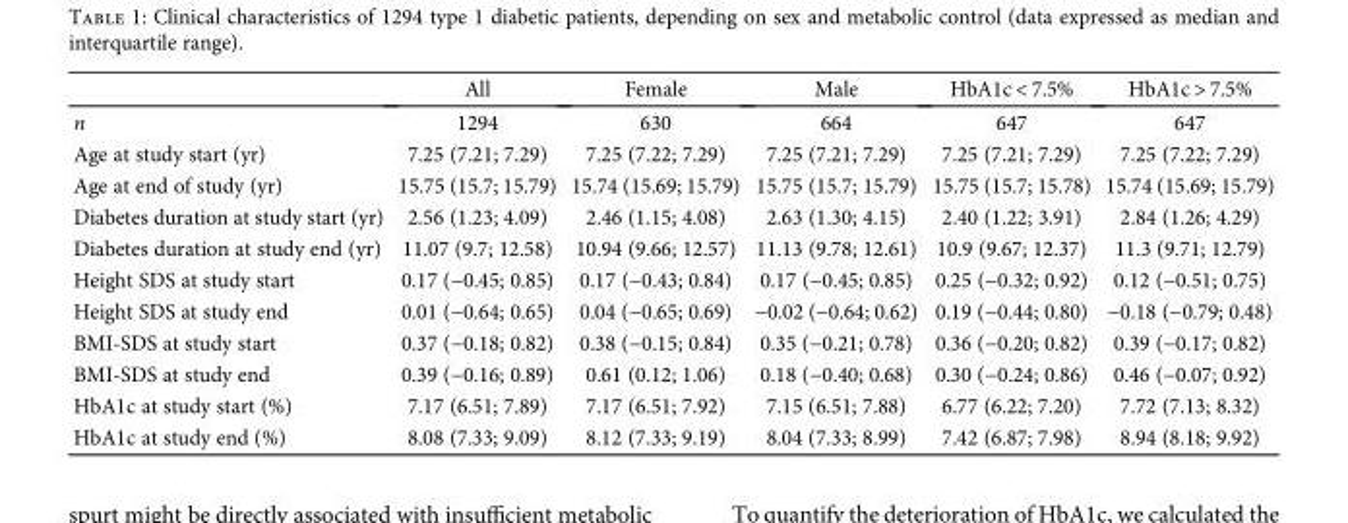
<table><thead><tr><td></td><td>All</td><td>Female</td><td>Male</td><td>HbA1c &lt; 7.5%</td><td>HbA1c &gt; 7.5%</td></tr></thead><tbody><tr><td>n</td><td>1294</td><td>630</td><td>664</td><td>647</td><td>647</td></tr><tr><td>Age at study start (yr)</td><td>7.25 (7.21; 7.29)</td><td>7.25 (7.22; 7.29)</td><td>7.25 (7.21; 7.29)</td><td>7.25 (7.21; 7.29)</td><td>7.25 (7.22; 7.29)</td></tr><tr><td>Age at end of study (yr)</td><td>15.75 (15.7; 15.79)</td><td>15.74 (15.69; 15.79)</td><td>15.75 (15.7; 15.79)</td><td>15.75 (15.7; 15.78)</td><td>15.74 (15.69; 15.79)</td></tr><tr><td>Diabetes duration at study start (yr)</td><td>2.56 (1.23; 4.09)</td><td>2.46 (1.15; 4.08)</td><td>2.63 (1.30; 4.15)</td><td>2.40 (1.22; 3.91)</td><td>2.84 (1.26; 4.29)</td></tr><tr><td>Diabetes duration at study end (yr)</td><td>11.07 (9.7; 12.58)</td><td>10.94 (9.66; 12.57)</td><td>11.13 (9.78; 12.61)</td><td>10.9 (9.67; 12.37)</td><td>11.3 (9.71; 12.79)</td></tr><tr><td>Height SDS at study start</td><td>0.17 (−0.45; 0.85)</td><td>0.17 (−0.43; 0.84)</td><td>0.17 (−0.45; 0.85)</td><td>0.25 (−0.32; 0.92)</td><td>0.12 (−0.51; 0.75)</td></tr><tr><td>Height SDS at study end</td><td>0.01 (−0.64; 0.65)</td><td>0.04 (−0.65; 0.69)</td><td>−0.02 (−0.64; 0.62)</td><td>0.19 (−0.44; 0.80)</td><td>−0.18 (−0.79; 0.48)</td></tr><tr><td>BMI-SDS at study start</td><td>0.37 (−0.18; 0.82)</td><td>0.38 (−0.15; 0.84)</td><td>0.35 (−0.21; 0.78)</td><td>0.36 (−0.20; 0.82)</td><td>0.39 (−0.17; 0.82)</td></tr><tr><td>BMI-SDS at study end</td><td>0.39 (−0.16; 0.89)</td><td>0.61 (0.12; 1.06)</td><td>0.18 (−0.40; 0.68)</td><td>0.30 (−0.24; 0.86)</td><td>0.46 (−0.07; 0.92)</td></tr><tr><td>HbA1c at study start (%)</td><td>7.17 (6.51; 7.89)</td><td>7.17 (6.51; 7.92)</td><td>7.15 (6.51; 7.88)</td><td>6.77 (6.22; 7.20)</td><td>7.72 (7.13; 8.32)</td></tr><tr><td>HbA1c at study end (%)</td><td>8.08 (7.33; 9.09)</td><td>8.12 (7.33; 9.19)</td><td>8.04 (7.33; 8.99)</td><td>7.42 (6.87; 7.98)</td><td>8.94 (8.18; 9.92)</td></tr></tbody></table>